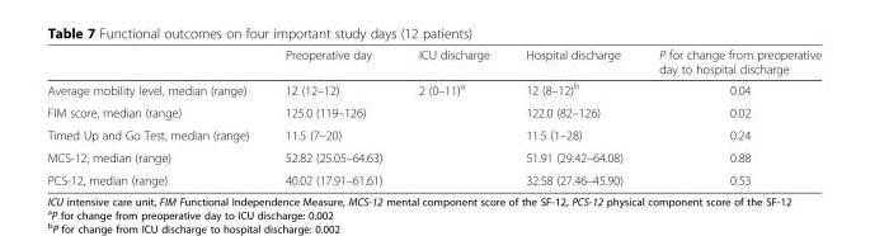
<table><thead><tr><td></td><td>Preoperative day</td><td>ICU discharge</td><td>Hospital discharge</td><td>P for change from preoperative day to hospital discharge</td></tr></thead><tbody><tr><td>Average mobility level, median (range)</td><td>12 (12–12)</td><td>2 (0–11)<sup>a</sup></td><td>12 (8–12)<sup>b</sup></td><td>0.04</td></tr><tr><td>FIM score, median (range)</td><td>125.0 (119–126)</td><td></td><td>122.0 (82–126)</td><td>0.02</td></tr><tr><td>Timed Up and Go Test, median (range)</td><td>11.5 (7–20)</td><td></td><td>11.5 (1–28)</td><td>0.24</td></tr><tr><td>MCS-12, median (range)</td><td>52.82 (25.05–64.63)</td><td></td><td>51.91 (29.42–64.08)</td><td>0.88</td></tr><tr><td>PCS-12, median (range)</td><td>40.02 (17.91–61.61)</td><td></td><td>32.58 (27.46–45.90)</td><td>0.53</td></tr></tbody></table>